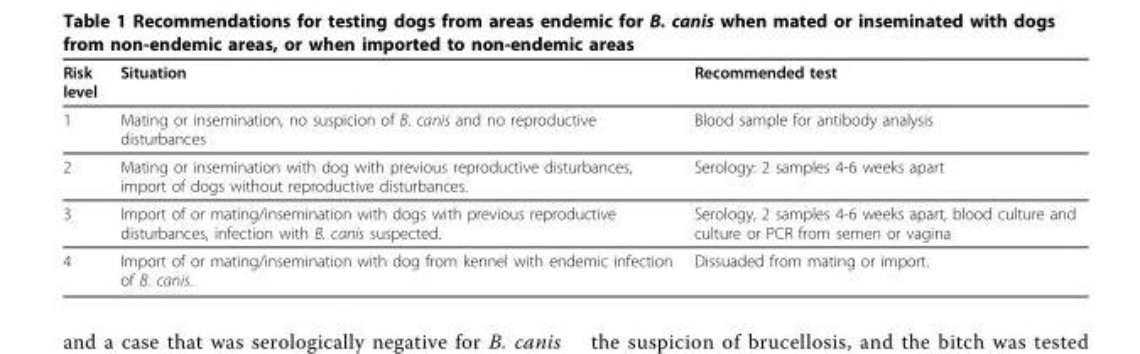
<table><thead><tr><td>Risk level</td><td>Situation</td><td>Recommended test</td></tr></thead><tbody><tr><td>1</td><td>Mating or insemination, no suspicion of B. canis and no reproductive disturbances</td><td>Blood sample for antibody analysis</td></tr><tr><td>2</td><td>Mating or insemination with dog with previous reproductive disturbances, import of dogs without reproductive disturbances.</td><td>Serology: 2 samples 4-6 weeks apart</td></tr><tr><td>3</td><td>Import of or mating/insemination with dogs with previous reproductive disturbances, infection with B. canis suspected.</td><td>Serology, 2 samples 4-6 weeks apart, blood culture and culture or PCR from semen or vagina</td></tr><tr><td>4</td><td>Import of or mating/insemination with dog from kennel with endemic infection of B. canis.</td><td>Dissuaded from mating or import.</td></tr></tbody></table>